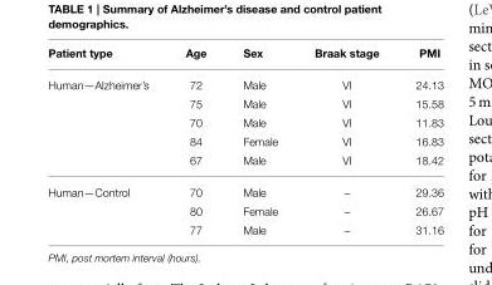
<table><thead><tr><td>Patient type</td><td>Age</td><td>Sex</td><td>Braak stage</td><td>PMI</td></tr></thead><tbody><tr><td rowspan="5">Human—Alzheimer’s</td><td>72</td><td>Male</td><td>VI</td><td>24.13</td></tr><tr><td>75</td><td>Male</td><td>VI</td><td>15.58</td></tr><tr><td>70</td><td>Male</td><td>VI</td><td>11.83</td></tr><tr><td>84</td><td>Female</td><td>VI</td><td>16.83</td></tr><tr><td>67</td><td>Male</td><td>VI</td><td>18.42</td></tr><tr><td rowspan="3">Human—Control</td><td>70</td><td>Male</td><td>–</td><td>29.36</td></tr><tr><td>80</td><td>Female</td><td>–</td><td>26.67</td></tr><tr><td>77</td><td>Male</td><td>–</td><td>31.16</td></tr></tbody></table>